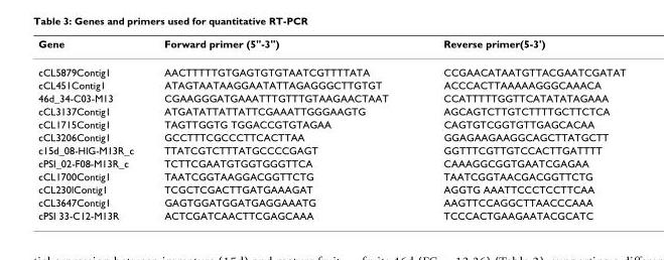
<table><thead><tr><td>Gene</td><td>Forward primer (5&quot;-3&quot;)</td><td>Reverse primer(5-3&#x27;)</td></tr></thead><tbody><tr><td>cCL5879Contig1</td><td>AACTTTTTGTGAGTGTGTAATCGTTTTATA</td><td>CCGAACATAATGTTACGAATCGATAT</td></tr><tr><td>cCL451Contig1</td><td>ATAGTAATAAGGAATATTAGAGGGCTTGTGT</td><td>ACCCACTTAAAAAGGGCAAACA</td></tr><tr><td>46d_34-C03-M13</td><td>CGAAGGGATGAAATTTGTTTGTAAGAACTAAT</td><td>CCATTTTTGGTTCATATATAGAAA</td></tr><tr><td>cCL3137Contig1</td><td>ATGATATTATTATTCGAAATTGGGAAGTG</td><td>AGCAGTCTTGTCTTTTGCTTCTCA</td></tr><tr><td>cCL1715Contig1</td><td>TAGTTGGTG TGGACCGTGTAGAA</td><td>CAGTGTCGGTGTTGAGCACAA</td></tr><tr><td>cCL3206Contig1</td><td>GCCTTTCGCCCTTCACTTAA</td><td>GGAGAAGAAGGCAGCTTATGCTT</td></tr><tr><td>c15d_08-HlG-M13R_c</td><td>TTATCGTCTTTATGCCCCGAGT</td><td>GGTTTCGTTGTCCACTTGATTTT</td></tr><tr><td>cPSI_02-F08-M13R_c</td><td>TCTTCGAATGTGGTGGGTTCA</td><td>CAAAGGCGGTGAATCGAGAA</td></tr><tr><td>cCL1700Contig1</td><td>TAATCGGTAAGGACGGTTCTG</td><td>TAATCGGTAACGACGGTTCTG</td></tr><tr><td>cCL230lContig1</td><td>TCGCTCGACTTGATGAAAGAT</td><td>AGGTG AAATTCCCTCCTTCAA</td></tr><tr><td>cCL3647Contig1</td><td>GAGTGGATGGATGAGGAAATG</td><td>AAGTTCCAGGCTTAACCCAAA</td></tr><tr><td>cPSI 33-C12-M13R</td><td>ACTCGATCAACTTCGAGCAAA</td><td>TCCCACTGAAGAATACGCATC</td></tr></tbody></table>